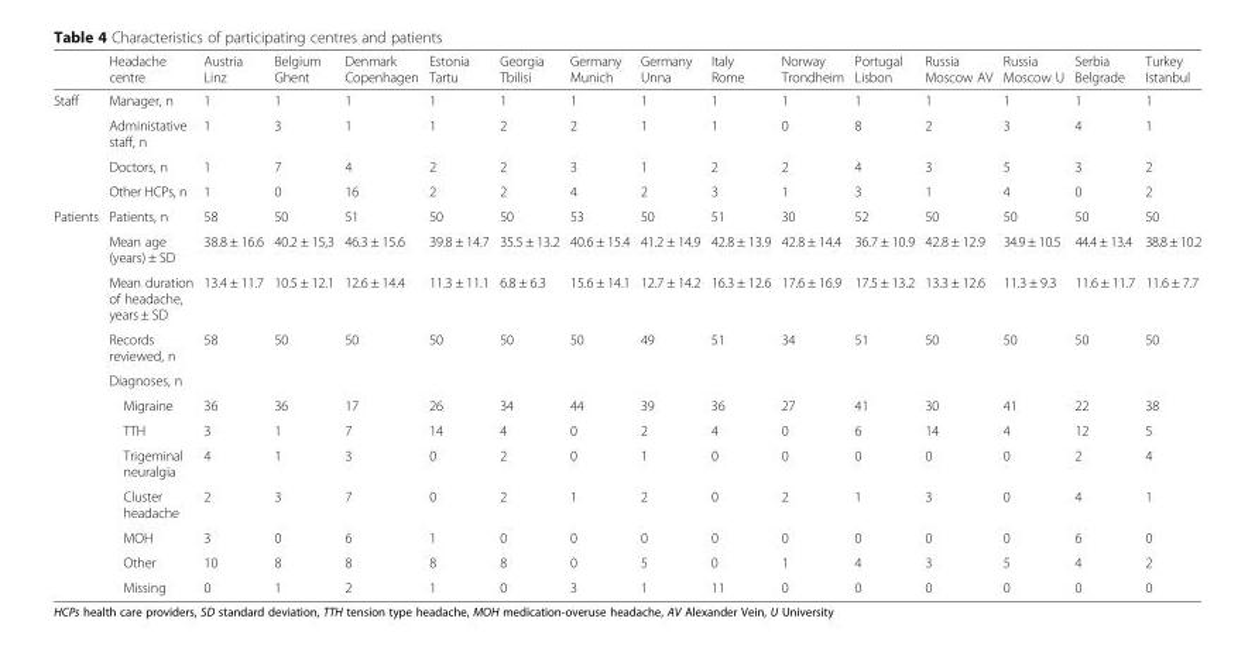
<table><thead><tr><td></td><td>Headache centre</td><td>Austria Linz</td><td>Belgium Ghent</td><td>Denmark Copenhagen</td><td>Estonia Tartu</td><td>Georgia Tbilisi</td><td>Germany Munich</td><td>Germany Unna</td><td>Italy Rome</td><td>Norway Trondheim</td><td>Portugal Lisbon</td><td>Russia Moscow AV</td><td>Russia Moscow U</td><td>Serbia Belgrade</td><td>Turkey Istanbul</td></tr></thead><tbody><tr><td rowspan="4">Staff</td><td>Manager, n</td><td>1</td><td>1</td><td>1</td><td>1</td><td>1</td><td>1</td><td>1</td><td>1</td><td>1</td><td>1</td><td>1</td><td>1</td><td>1</td><td>1</td></tr><tr><td>Administative staff, n</td><td>1</td><td>3</td><td>1</td><td>1</td><td>2</td><td>2</td><td>1</td><td>1</td><td>0</td><td>8</td><td>2</td><td>3</td><td>4</td><td>1</td></tr><tr><td>Doctors, n</td><td>1</td><td>7</td><td>4</td><td>2</td><td>2</td><td>3</td><td>1</td><td>2</td><td>2</td><td>4</td><td>3</td><td>5</td><td>3</td><td>2</td></tr><tr><td>Other HCPs, n</td><td>1</td><td>0</td><td>16</td><td>2</td><td>2</td><td>4</td><td>2</td><td>3</td><td>1</td><td>3</td><td>1</td><td>4</td><td>0</td><td>2</td></tr><tr><td rowspan="12">Patients</td><td>Patients, n</td><td>58</td><td>50</td><td>51</td><td>50</td><td>50</td><td>53</td><td>50</td><td>51</td><td>30</td><td>52</td><td>50</td><td>50</td><td>50</td><td>50</td></tr><tr><td>Mean age (years) ± SD</td><td>38.8 ± 16.6</td><td>40.2 ± 15,3</td><td>46.3 ± 15.6</td><td>39.8 ± 14.7</td><td>35.5 ± 13.2</td><td>40.6 ± 15.4</td><td>41.2 ± 14.9</td><td>42.8 ± 13.9</td><td>42.8 ± 14.4</td><td>36.7 ± 10.9</td><td>42.8 ± 12.9</td><td>34.9 ± 10.5</td><td>44.4 ± 13.4</td><td>38.8 ± 10.2</td></tr><tr><td>Mean duration of headache, years ± SD</td><td>13.4 ± 11.7</td><td>10.5 ± 12.1</td><td>12.6 ± 14.4</td><td>11.3 ± 11.1</td><td>6.8 ± 6.3</td><td>15.6 ± 14.1</td><td>12.7 ± 14.2</td><td>16.3 ± 12.6</td><td>17.6 ± 16.9</td><td>17.5 ± 13.2</td><td>13.3 ± 12.6</td><td>11.3 ± 9.3</td><td>11.6 ± 11.7</td><td>11.6 ± 7.7</td></tr><tr><td>Records reviewed, n</td><td>58</td><td>50</td><td>50</td><td>50</td><td>50</td><td>50</td><td>49</td><td>51</td><td>34</td><td>51</td><td>50</td><td>50</td><td>50</td><td>50</td></tr><tr><td>Diagnoses, n</td><td></td><td></td><td></td><td></td><td></td><td></td><td></td><td></td><td></td><td></td><td></td><td></td><td></td><td></td></tr><tr><td>Migraine</td><td>36</td><td>36</td><td>17</td><td>26</td><td>34</td><td>44</td><td>39</td><td>36</td><td>27</td><td>41</td><td>30</td><td>41</td><td>22</td><td>38</td></tr><tr><td>TTH</td><td>3</td><td>1</td><td>7</td><td>14</td><td>4</td><td>0</td><td>2</td><td>4</td><td>0</td><td>6</td><td>14</td><td>4</td><td>12</td><td>5</td></tr><tr><td>Trigeminal neuralgia</td><td>4</td><td>1</td><td>3</td><td>0</td><td>2</td><td>0</td><td>1</td><td>0</td><td>0</td><td>0</td><td>0</td><td>0</td><td>2</td><td>4</td></tr><tr><td>Cluster headache</td><td>2</td><td>3</td><td>7</td><td>0</td><td>2</td><td>1</td><td>2</td><td>0</td><td>2</td><td>1</td><td>3</td><td>0</td><td>4</td><td>1</td></tr><tr><td>MOH</td><td>3</td><td>0</td><td>6</td><td>1</td><td>0</td><td>0</td><td>0</td><td>0</td><td>0</td><td>0</td><td>0</td><td>0</td><td>6</td><td>0</td></tr><tr><td>Other</td><td>10</td><td>8</td><td>8</td><td>8</td><td>8</td><td>0</td><td>5</td><td>0</td><td>1</td><td>4</td><td>3</td><td>5</td><td>4</td><td>2</td></tr><tr><td>Missing</td><td>0</td><td>1</td><td>2</td><td>1</td><td>0</td><td>3</td><td>1</td><td>11</td><td>0</td><td>0</td><td>0</td><td>0</td><td>0</td><td>0</td></tr></tbody></table>